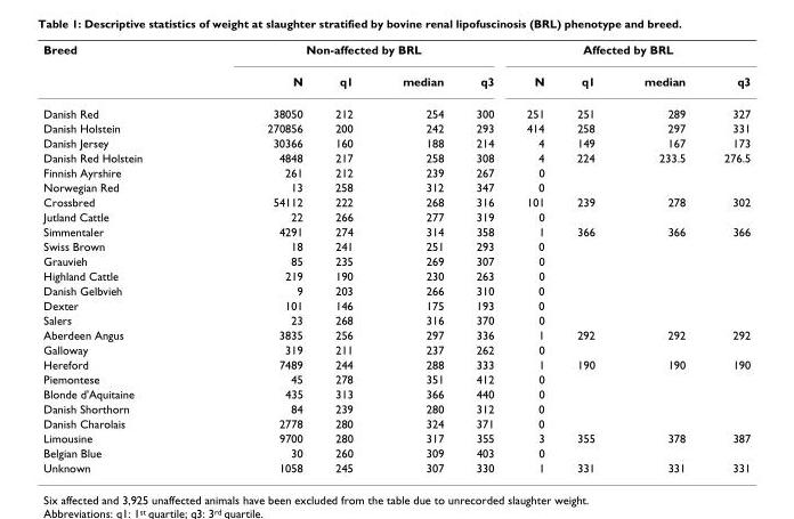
<table><tbody><tr><td rowspan="2">Breed</td><td colspan="4">Non-affected by BRL</td><td colspan="4">Affected by BRL</td></tr><tr><td>N</td><td>q1</td><td>median</td><td>q3</td><td>N</td><td>q1</td><td>median</td><td>q3</td></tr><tr><td>Danish Red</td><td>38050</td><td>212</td><td>254</td><td>300</td><td>251</td><td>251</td><td>289</td><td>327</td></tr><tr><td>Danish Holstein</td><td>270856</td><td>200</td><td>242</td><td>293</td><td>414</td><td>258</td><td>297</td><td>331</td></tr><tr><td>Danish Jersey</td><td>30366</td><td>160</td><td>188</td><td>214</td><td>4</td><td>149</td><td>167</td><td>173</td></tr><tr><td>Danish Red Holstein</td><td>4848</td><td>217</td><td>258</td><td>308</td><td>4</td><td>224</td><td>233.5</td><td>276.5</td></tr><tr><td>Finnish Ayrshire</td><td>261</td><td>212</td><td>239</td><td>267</td><td>0</td><td></td><td></td><td></td></tr><tr><td>Norwegian Red</td><td>13</td><td>258</td><td>312</td><td>347</td><td>0</td><td></td><td></td><td></td></tr><tr><td>Crossbred</td><td>54112</td><td>222</td><td>268</td><td>316</td><td>101</td><td>239</td><td>278</td><td>302</td></tr><tr><td>Jutland Cattle</td><td>22</td><td>266</td><td>277</td><td>319</td><td>0</td><td></td><td></td><td></td></tr><tr><td>Simmentaler</td><td>4291</td><td>274</td><td>314</td><td>358</td><td>1</td><td>366</td><td>366</td><td>366</td></tr><tr><td>Swiss Brown</td><td>18</td><td>241</td><td>251</td><td>293</td><td>0</td><td></td><td></td><td></td></tr><tr><td>Grauvieh</td><td>85</td><td>235</td><td>269</td><td>307</td><td>0</td><td></td><td></td><td></td></tr><tr><td>Highland Cattle</td><td>219</td><td>190</td><td>230</td><td>263</td><td>0</td><td></td><td></td><td></td></tr><tr><td>Danish Gelbvieh</td><td>9</td><td>203</td><td>266</td><td>310</td><td>0</td><td></td><td></td><td></td></tr><tr><td>Dexter</td><td>101</td><td>146</td><td>175</td><td>193</td><td>0</td><td></td><td></td><td></td></tr><tr><td>Salers</td><td>23</td><td>268</td><td>316</td><td>370</td><td>0</td><td></td><td></td><td></td></tr><tr><td>Aberdeen Angus</td><td>3835</td><td>256</td><td>297</td><td>336</td><td>1</td><td>292</td><td>292</td><td>292</td></tr><tr><td>Galloway</td><td>319</td><td>211</td><td>237</td><td>262</td><td>0</td><td></td><td></td><td></td></tr><tr><td>Hereford</td><td>7489</td><td>244</td><td>288</td><td>333</td><td>1</td><td>190</td><td>190</td><td>190</td></tr><tr><td>Piemontese</td><td>45</td><td>278</td><td>351</td><td>412</td><td>0</td><td></td><td></td><td></td></tr><tr><td>Blonde d&#x27;Aquitaine</td><td>435</td><td>313</td><td>366</td><td>440</td><td>0</td><td></td><td></td><td></td></tr><tr><td>Danish Shorthorn</td><td>84</td><td>239</td><td>280</td><td>312</td><td>0</td><td></td><td></td><td></td></tr><tr><td>Danish Charolais</td><td>2778</td><td>280</td><td>324</td><td>371</td><td>0</td><td></td><td></td><td></td></tr><tr><td>Limousine</td><td>9700</td><td>280</td><td>317</td><td>355</td><td>3</td><td>355</td><td>378</td><td>387</td></tr><tr><td>Belgian Blue</td><td>30</td><td>260</td><td>309</td><td>403</td><td>0</td><td></td><td></td><td></td></tr><tr><td>Unknown</td><td>1058</td><td>245</td><td>307</td><td>330</td><td>1</td><td>331</td><td>331</td><td>331</td></tr></tbody></table>